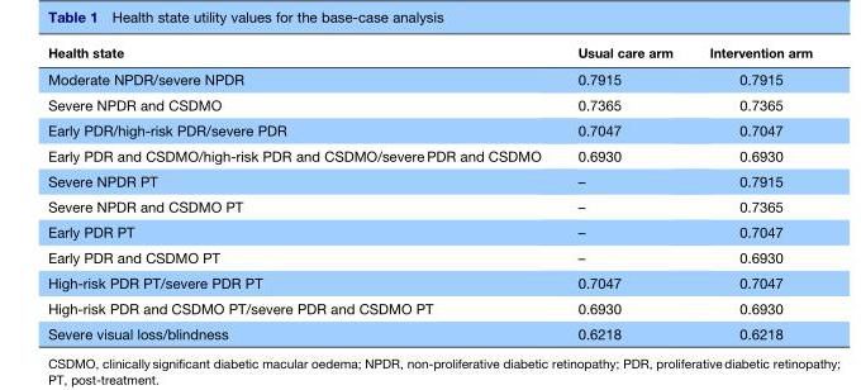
<table><thead><tr><td>Health state</td><td>Usual care arm</td><td>Intervention arm</td></tr></thead><tbody><tr><td>Moderate NPDR/severe NPDR</td><td>0.7915</td><td>0.7915</td></tr><tr><td>Severe NPDR and CSDMO</td><td>0.7365</td><td>0.7365</td></tr><tr><td>Early PDR/high-risk PDR/severe PDR</td><td>0.7047</td><td>0.7047</td></tr><tr><td>Early PDR and CSDMO/high-risk PDR and CSDMO/severe PDR and CSDMO</td><td>0.6930</td><td>0.6930</td></tr><tr><td>Severe NPDR PT</td><td>–</td><td>0.7915</td></tr><tr><td>Severe NPDR and CSDMO PT</td><td>–</td><td>0.7365</td></tr><tr><td>Early PDR PT</td><td>–</td><td>0.7047</td></tr><tr><td>Early PDR and CSDMO PT</td><td>–</td><td>0.6930</td></tr><tr><td>High-risk PDR PT/severe PDR PT</td><td>0.7047</td><td>0.7047</td></tr><tr><td>High-risk PDR and CSDMO PT/severe PDR and CSDMO PT</td><td>0.6930</td><td>0.6930</td></tr><tr><td>Severe visual loss/blindness</td><td>0.6218</td><td>0.6218</td></tr></tbody></table>